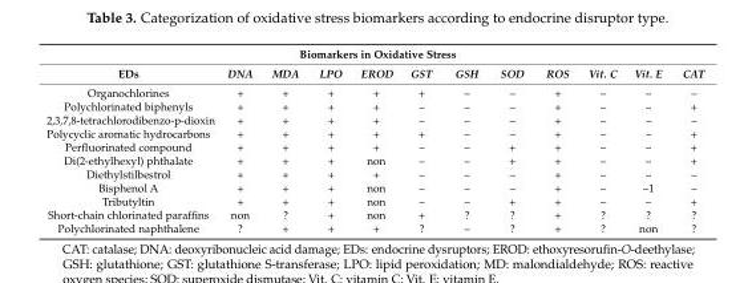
<table><thead><tr><td colspan="12">Biomarkers in Oxidative Stress</td></tr><tr><td>EDs</td><td>DNA</td><td>MDA</td><td>LPO</td><td>EROD</td><td>GST</td><td>GSH</td><td>SOD</td><td>ROS</td><td>Vit. C</td><td>Vit. E</td><td>CAT</td></tr></thead><tbody><tr><td>Organochlorines</td><td>+</td><td>+</td><td>+</td><td>+</td><td>+</td><td>–</td><td>–</td><td>+</td><td>–</td><td>–</td><td>–</td></tr><tr><td>Polychlorinated biphenyls</td><td>+</td><td>+</td><td>+</td><td>+</td><td>–</td><td>–</td><td>–</td><td>+</td><td>–</td><td>–</td><td>+</td></tr><tr><td>2,3,7,8-tetrachlorodibenzo-p-dioxin</td><td>+</td><td>+</td><td>+</td><td>+</td><td>–</td><td>–</td><td>–</td><td>+</td><td>–</td><td>–</td><td>–</td></tr><tr><td>Polycyclic aromatic hydrocarbons</td><td>+</td><td>+</td><td>+</td><td>+</td><td>+</td><td>–</td><td>–</td><td>+</td><td>–</td><td>–</td><td>+</td></tr><tr><td>Perfluorinated compound</td><td>+</td><td>+</td><td>+</td><td>+</td><td>–</td><td>–</td><td>+</td><td>+</td><td>–</td><td>–</td><td>+</td></tr><tr><td>Di(2-ethylhexyl) phthalate</td><td>+</td><td>+</td><td>+</td><td>non</td><td>–</td><td>–</td><td>+</td><td>+</td><td>–</td><td>–</td><td>+</td></tr><tr><td>Diethylstilbestrol</td><td>+</td><td>+</td><td>+</td><td>+</td><td>–</td><td>–</td><td>–</td><td>+</td><td>–</td><td>–</td><td>–</td></tr><tr><td>Bisphenol A</td><td>+</td><td>+</td><td>+</td><td>non</td><td>–</td><td>–</td><td>–</td><td>+</td><td>–</td><td>–1</td><td>–</td></tr><tr><td>Tributyltin</td><td>+</td><td>+</td><td>+</td><td>non</td><td>–</td><td>–</td><td>+</td><td>+</td><td>–</td><td>–</td><td>+</td></tr><tr><td>Short-chain chlorinated paraffins</td><td>non</td><td>?</td><td>+</td><td>non</td><td>+</td><td>?</td><td>?</td><td>+</td><td>?</td><td>?</td><td>?</td></tr><tr><td>Polychlorinated naphthalene</td><td>?</td><td>+</td><td>+</td><td>+</td><td>?</td><td>–</td><td>?</td><td>+</td><td>?</td><td>non</td><td>?</td></tr></tbody></table>